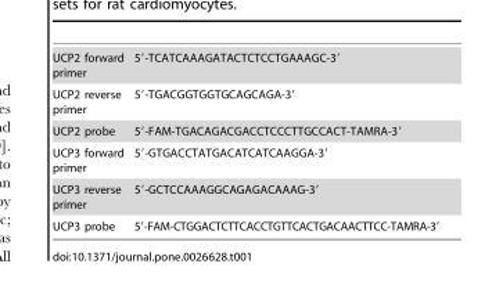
<table><tbody><tr><td>UCP2 forward primer</td><td>5′-TCATCAAAGATACTCTCCTGAAAGC-3′</td></tr><tr><td>UCP2 reverse primer</td><td>5′-TGACGGTGGTGCAGCAGA-3′</td></tr><tr><td>UCP2 probe</td><td>5′-FAM-TGACAGACGACCTCCCTTGCCACT-TAMRA-3′</td></tr><tr><td>UCP3 forward primer</td><td>5′-GTGACCTATGACATCATCAAGGA-3′</td></tr><tr><td>UCP3 reverse primer</td><td>5′-GCTCCAAAGGCAGAGACAAAG-3′</td></tr><tr><td>UCP3 probe</td><td>5′-FAM-CTGGACTCTTCACCTGTTCACTGACAACTTCC-TAMRA-3′</td></tr></tbody></table>